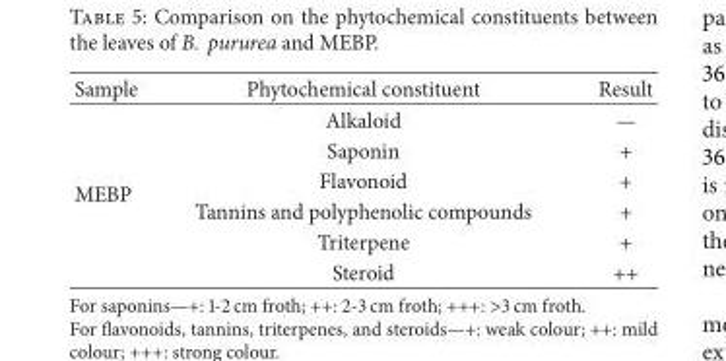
<table><thead><tr><td>Sample</td><td>Phytochemical constituent</td><td>Result</td></tr></thead><tbody><tr><td rowspan="6">MEBP</td><td>Alkaloid</td><td>—</td></tr><tr><td>Saponin</td><td>+</td></tr><tr><td>Flavonoid</td><td>+</td></tr><tr><td>Tannins and polyphenolic compounds</td><td>+</td></tr><tr><td>Triterpene</td><td>+</td></tr><tr><td>Steroid</td><td>++</td></tr></tbody></table>